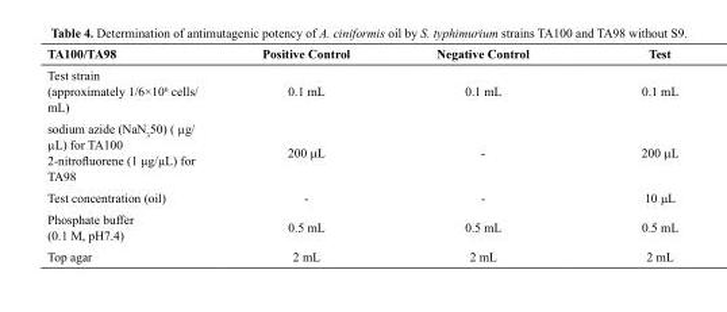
<table><thead><tr><td>Test</td><td>Negative Control</td><td>Positive Control</td><td>TA100/TA98</td></tr></thead><tbody><tr><td>0.1 mL</td><td>0.1 mL</td><td>0.1 mL</td><td>Test strain (approximately 1/6×10<sup>6</sup> cells/ mL)</td></tr><tr><td rowspan="2">200 µL</td><td rowspan="2">-</td><td rowspan="2">200 µL</td><td>sodium azide (NaN350) ( µg/ µL) for TA100</td></tr><tr><td>2-nitrofluorene (1 µg/µL) for TA98</td></tr><tr><td>10 µL</td><td>-</td><td>-</td><td>Test concentration (oil)</td></tr><tr><td>0.5 mL</td><td>0.5 mL</td><td>0.5 mL</td><td>Phosphate buffer (0.1 M, pH7.4)</td></tr><tr><td>2 mL</td><td>2 mL</td><td>2 mL</td><td>Top agar</td></tr></tbody></table>